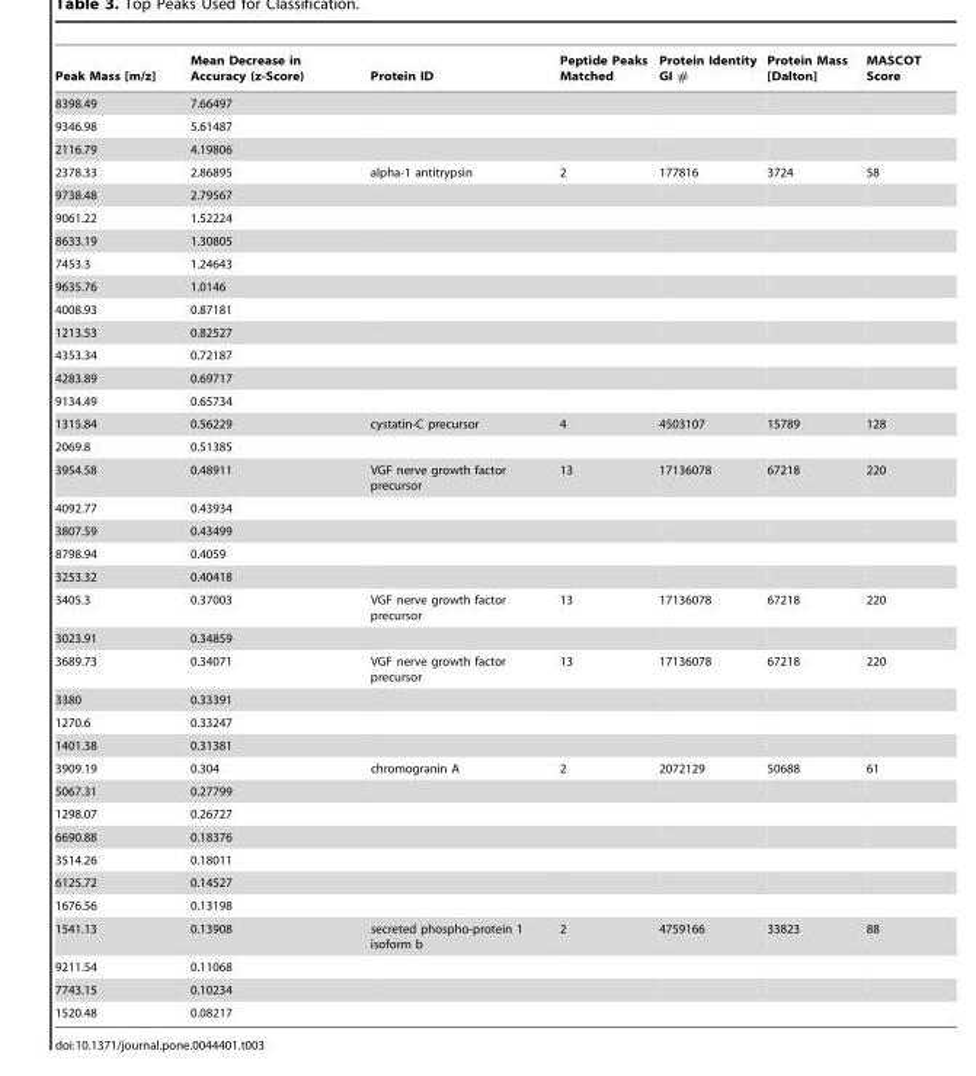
<table><thead><tr><td>Peak Mass [m/z]</td><td>Mean Decrease in Accuracy (z-Score)</td><td>Protein ID</td><td>Peptide Peaks Matched</td><td>Protein Identity GI #</td><td>Protein Mass [Dalton]</td><td>MASCOT Score</td></tr></thead><tbody><tr><td>8398.49</td><td>7.66497</td><td></td><td></td><td></td><td></td><td></td></tr><tr><td>9346.98</td><td>5.61487</td><td></td><td></td><td></td><td></td><td></td></tr><tr><td>2116.79</td><td>4.19806</td><td></td><td></td><td></td><td></td><td></td></tr><tr><td>2378.33</td><td>2.86895</td><td>alpha-1 antitrypsin</td><td>2</td><td>177816</td><td>3724</td><td>58</td></tr><tr><td>9738.48</td><td>2.79567</td><td></td><td></td><td></td><td></td><td></td></tr><tr><td>9061.22</td><td>1.52224</td><td></td><td></td><td></td><td></td><td></td></tr><tr><td>8633.19</td><td>1.30805</td><td></td><td></td><td></td><td></td><td></td></tr><tr><td>7453.3</td><td>1.24643</td><td></td><td></td><td></td><td></td><td></td></tr><tr><td>9635.76</td><td>1.0146</td><td></td><td></td><td></td><td></td><td></td></tr><tr><td>4008.93</td><td>0.87181</td><td></td><td></td><td></td><td></td><td></td></tr><tr><td>1213.53</td><td>0.82527</td><td></td><td></td><td></td><td></td><td></td></tr><tr><td>4353.34</td><td>0.72187</td><td></td><td></td><td></td><td></td><td></td></tr><tr><td>4283.89</td><td>0.69717</td><td></td><td></td><td></td><td></td><td></td></tr><tr><td>9134.49</td><td>0.65734</td><td></td><td></td><td></td><td></td><td></td></tr><tr><td>1315.84</td><td>0.56229</td><td>cystatin-C precursor</td><td>4</td><td>4503107</td><td>15789</td><td>128</td></tr><tr><td>2069.8</td><td>0.51385</td><td></td><td></td><td></td><td></td><td></td></tr><tr><td>3954.58</td><td>0.48911</td><td>VGF nerve growth factor precursor</td><td>13</td><td>17136078</td><td>67218</td><td>220</td></tr><tr><td>4092.77</td><td>0.43934</td><td></td><td></td><td></td><td></td><td></td></tr><tr><td>3807.59</td><td>0.43499</td><td></td><td></td><td></td><td></td><td></td></tr><tr><td>8798.94</td><td>0.4059</td><td></td><td></td><td></td><td></td><td></td></tr><tr><td>3253.32</td><td>0.40418</td><td></td><td></td><td></td><td></td><td></td></tr><tr><td>3405.3</td><td>0.37003</td><td>VGF nerve growth factor precursor</td><td>13</td><td>17136078</td><td>67218</td><td>220</td></tr><tr><td>3023.91</td><td>0.34859</td><td></td><td></td><td></td><td></td><td></td></tr><tr><td>3689.73</td><td>0.34071</td><td>VGF nerve growth factor precursor</td><td>13</td><td>17136078</td><td>67218</td><td>220</td></tr><tr><td>3380</td><td>0.33391</td><td></td><td></td><td></td><td></td><td></td></tr><tr><td>1270.6</td><td>0.33247</td><td></td><td></td><td></td><td></td><td></td></tr><tr><td>1401.38</td><td>0.31381</td><td></td><td></td><td></td><td></td><td></td></tr><tr><td>3909.19</td><td>0.304</td><td>chromogranin A</td><td>2</td><td>2072129</td><td>50688</td><td>61</td></tr><tr><td>5067.31</td><td>0.27799</td><td></td><td></td><td></td><td></td><td></td></tr><tr><td>1298.07</td><td>0.26727</td><td></td><td></td><td></td><td></td><td></td></tr><tr><td>6690.88</td><td>0.18376</td><td></td><td></td><td></td><td></td><td></td></tr><tr><td>3514.26</td><td>0.18011</td><td></td><td></td><td></td><td></td><td></td></tr><tr><td>6125.72</td><td>0.14527</td><td></td><td></td><td></td><td></td><td></td></tr><tr><td>1676.56</td><td>0.13198</td><td></td><td></td><td></td><td></td><td></td></tr><tr><td>1541.13</td><td>0.13908</td><td>secreted phospho-protein 1 isoform b</td><td>2</td><td>4759166</td><td>33823</td><td>88</td></tr><tr><td>9211.54</td><td>0.11068</td><td></td><td></td><td></td><td></td><td></td></tr><tr><td>7743.15</td><td>0.10234</td><td></td><td></td><td></td><td></td><td></td></tr><tr><td>1520.48</td><td>0.08217</td><td></td><td></td><td></td><td></td><td></td></tr></tbody></table>